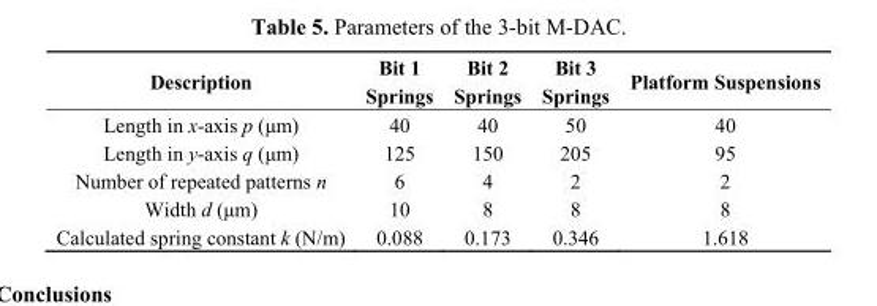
<table><thead><tr><td>Description</td><td>Bit 1 Springs</td><td>Bit 2 Springs</td><td>Bit 3 Springs</td><td>Platform Suspensions</td></tr></thead><tbody><tr><td>Length in x-axis p (μm)</td><td>40</td><td>40</td><td>50</td><td>40</td></tr><tr><td>Length in y-axis q (μm)</td><td>125</td><td>150</td><td>205</td><td>95</td></tr><tr><td>Number of repeated patterns n</td><td>6</td><td>4</td><td>2</td><td>2</td></tr><tr><td>Width d (μm)</td><td>10</td><td>8</td><td>8</td><td>8</td></tr><tr><td>Calculated spring constant k (N/m)</td><td>0.088</td><td>0.173</td><td>0.346</td><td>1.618</td></tr></tbody></table>